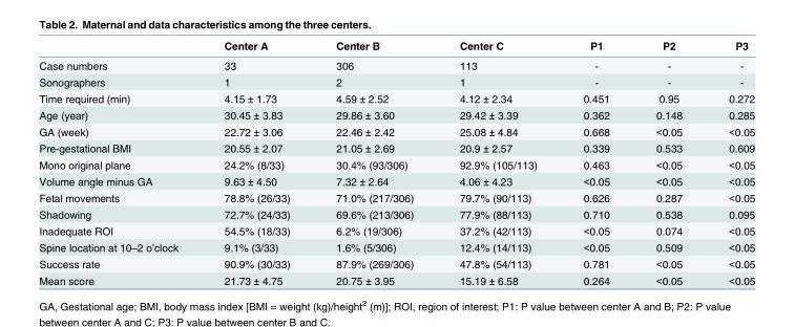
<table><thead><tr><td></td><td>Center A</td><td>Center B</td><td>Center C</td><td>P1</td><td>P2</td><td>P3</td></tr></thead><tbody><tr><td>Case numbers</td><td>33</td><td>306</td><td>113</td><td>-</td><td>-</td><td>-</td></tr><tr><td>Sonographers</td><td>1</td><td>2</td><td>1</td><td>-</td><td>-</td><td>-</td></tr><tr><td>Time required (min)</td><td>4.15 ± 1.73</td><td>4.59 ± 2.52</td><td>4.12 ± 2.34</td><td>0.451</td><td>0.95</td><td>0.272</td></tr><tr><td>Age (year)</td><td>30.45 ± 3.83</td><td>29.86 ± 3.60</td><td>29.42 ± 3.39</td><td>0.362</td><td>0.148</td><td>0.285</td></tr><tr><td>GA (week)</td><td>22.72 ± 3.06</td><td>22.46 ± 2.42</td><td>25.08 ± 4.84</td><td>0.668</td><td>&lt;0.05</td><td>&lt;0.05</td></tr><tr><td>Pre-gestational BMI</td><td>20.55 ± 2.07</td><td>21.05 ± 2.69</td><td>20.9 ± 2.57</td><td>0.339</td><td>0.533</td><td>0.609</td></tr><tr><td>Mono original plane</td><td>24.2% (8/33)</td><td>30.4% (93/306)</td><td>92.9% (105/113)</td><td>0.463</td><td>&lt;0.05</td><td>&lt;0.05</td></tr><tr><td>Volume angle minus GA</td><td>9.63 ± 4.50</td><td>7.32 ± 2.64</td><td>4.06 ± 4.23</td><td>&lt;0.05</td><td>&lt;0.05</td><td>&lt;0.05</td></tr><tr><td>Fetal movements</td><td>78.8% (26/33)</td><td>71.0% (217/306)</td><td>79.7% (90/113)</td><td>0.626</td><td>0.287</td><td>&lt;0.05</td></tr><tr><td>Shadowing</td><td>72.7% (24/33)</td><td>69.6% (213/306)</td><td>77.9% (88/113)</td><td>0.710</td><td>0.538</td><td>0.095</td></tr><tr><td>Inadequate ROI</td><td>54.5% (18/33)</td><td>6.2% (19/306)</td><td>37.2% (42/113)</td><td>&lt;0.05</td><td>0.074</td><td>&lt;0.05</td></tr><tr><td>Spine location at 10–2 o’clock</td><td>9.1% (3/33)</td><td>1.6% (5/306)</td><td>12.4% (14/113)</td><td>&lt;0.05</td><td>0.509</td><td>&lt;0.05</td></tr><tr><td>Success rate</td><td>90.9% (30/33)</td><td>87.9% (269/306)</td><td>47.8% (54/113)</td><td>0.781</td><td>&lt;0.05</td><td>&lt;0.05</td></tr><tr><td>Mean score</td><td>21.73 ± 4.75</td><td>20.75 ± 3.95</td><td>15.19 ± 6.58</td><td>0.264</td><td>&lt;0.05</td><td>&lt;0.05</td></tr></tbody></table>